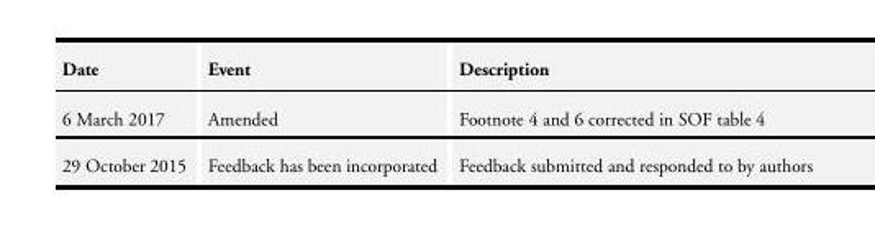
<table><thead><tr><td>Date</td><td>Event</td><td>Description</td></tr></thead><tbody><tr><td>6 March 2017</td><td>Amended</td><td>Footnote 4 and 6 corrected in SOF table 4</td></tr><tr><td>29 October 2015</td><td>Feedback has been incorporated</td><td>Feedback submitted and responded to by authors</td></tr></tbody></table>